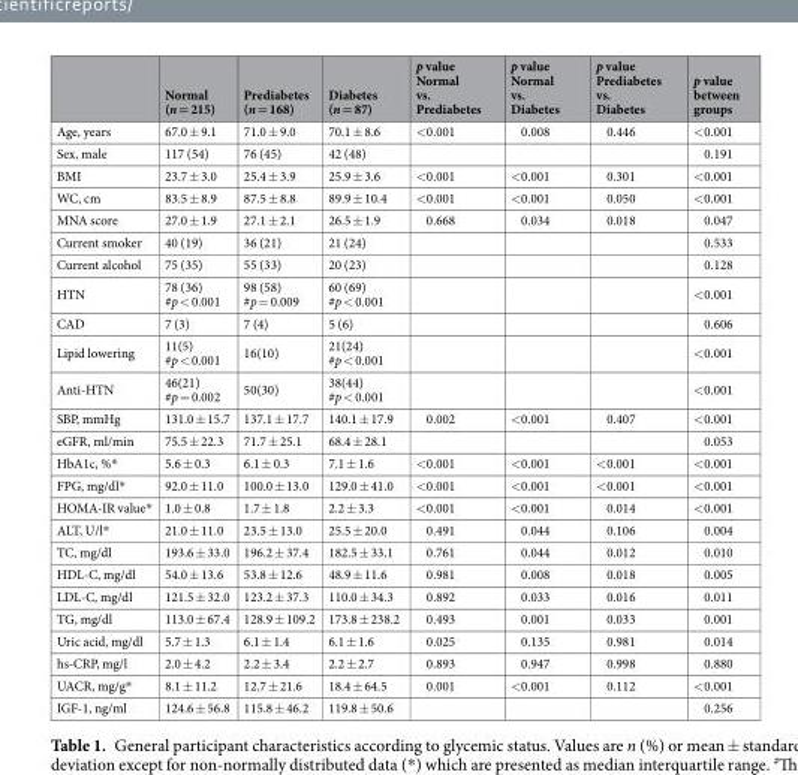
<table><thead><tr><td></td><td>Normal (n = 215)</td><td>Prediabetes (n = 168)</td><td>Diabetes (n = 87)</td><td>p value Normal vs. Prediabetes</td><td>p value Normal vs. Diabetes</td><td>p value Prediabetes vs. Diabetes</td><td>p value between groups</td></tr></thead><tbody><tr><td>Age, years</td><td>67.0 ± 9.1</td><td>71.0 ± 9.0</td><td>70.1 ± 8.6</td><td>&lt;0.001</td><td>0.008</td><td>0.446</td><td>&lt;0.001</td></tr><tr><td>Sex, male</td><td>117 (54)</td><td>76 (45)</td><td>42 (48)</td><td></td><td></td><td></td><td>0.191</td></tr><tr><td>BMI</td><td>23.7 ± 3.0</td><td>25.4 ± 3.9</td><td>25.9 ± 3.6</td><td>&lt;0.001</td><td>&lt;0.001</td><td>0.301</td><td>&lt;0.001</td></tr><tr><td>WC, cm</td><td>83.5 ± 8.9</td><td>87.5 ± 8.8</td><td>89.9 ± 10.4</td><td>&lt;0.001</td><td>&lt;0.001</td><td>0.050</td><td>&lt;0.001</td></tr><tr><td>MNA score</td><td>27.0 ± 1.9</td><td>27.1 ± 2.1</td><td>26.5 ± 1.9</td><td>0.668</td><td>0.034</td><td>0.018</td><td>0.047</td></tr><tr><td>Current smoker</td><td>40 (19)</td><td>36 (21)</td><td>21 (24)</td><td></td><td></td><td></td><td>0.533</td></tr><tr><td>Current alcohol</td><td>75 (35)</td><td>55 (33)</td><td>20 (23)</td><td></td><td></td><td></td><td>0.128</td></tr><tr><td>HTN</td><td>78 (36) #p &lt; 0.001</td><td>98 (58) #p = 0.009</td><td>60 (69) #p &lt; 0.001</td><td></td><td></td><td></td><td>&lt;0.001</td></tr><tr><td>CAD</td><td>7 (3)</td><td>7 (4)</td><td>5 (6)</td><td></td><td></td><td></td><td>0.606</td></tr><tr><td>Lipid lowering</td><td>11(5) #p &lt; 0.001</td><td>16(10)</td><td>21(24) #p &lt; 0.001</td><td></td><td></td><td></td><td>&lt;0.001</td></tr><tr><td>Anti-HTN</td><td>46(21) #p = 0.002</td><td>50(30)</td><td>38(44) #p &lt; 0.001</td><td></td><td></td><td></td><td>&lt;0.001</td></tr><tr><td>SBP, mmHg</td><td>131.0 ± 15.7</td><td>137.1 ± 17.7</td><td>140.1 ± 17.9</td><td>0.002</td><td>&lt;0.001</td><td>0.407</td><td>&lt;0.001</td></tr><tr><td>eGFR, ml/min</td><td>75.5 ± 22.3</td><td>71.7 ± 25.1</td><td>68.4 ± 28.1</td><td></td><td></td><td></td><td>0.053</td></tr><tr><td>HbA1c, %*</td><td>5.6 ± 0.3</td><td>6.1 ± 0.3</td><td>7.1 ± 1.6</td><td>&lt;0.001</td><td>&lt;0.001</td><td>&lt;0.001</td><td>&lt;0.001</td></tr><tr><td>FPG, mg/dl*</td><td>92.0 ± 11.0</td><td>100.0 ± 13.0</td><td>129.0 ± 41.0</td><td>&lt;0.001</td><td>&lt;0.001</td><td>&lt;0.001</td><td>&lt;0.001</td></tr><tr><td>HOMA-IR value*</td><td>1.0 ± 0.8</td><td>1.7 ± 1.8</td><td>2.2 ± 3.3</td><td>&lt;0.001</td><td>&lt;0.001</td><td>0.014</td><td>&lt;0.001</td></tr><tr><td>ALT, U/l*</td><td>21.0 ± 11.0</td><td>23.5 ± 13.0</td><td>25.5 ± 20.0</td><td>0.491</td><td>0.044</td><td>0.106</td><td>0.004</td></tr><tr><td>TC, mg/dl</td><td>193.6 ± 33.0</td><td>196.2 ± 37.4</td><td>182.5 ± 33.1</td><td>0.761</td><td>0.044</td><td>0.012</td><td>0.010</td></tr><tr><td>HDL-C, mg/dl</td><td>54.0 ± 13.6</td><td>53.8 ± 12.6</td><td>48.9 ± 11.6</td><td>0.981</td><td>0.008</td><td>0.018</td><td>0.005</td></tr><tr><td>LDL-C, mg/dl</td><td>121.5 ± 32.0</td><td>123.2 ± 37.3</td><td>110.0 ± 34.3</td><td>0.892</td><td>0.033</td><td>0.016</td><td>0.011</td></tr><tr><td>TG, mg/dl</td><td>113.0 ± 67.4</td><td>128.9 ± 109.2</td><td>173.8 ± 238.2</td><td>0.493</td><td>0.001</td><td>0.033</td><td>0.001</td></tr><tr><td>Uric acid, mg/dl</td><td>5.7 ± 1.3</td><td>6.1 ± 1.4</td><td>6.1 ± 1.6</td><td>0.025</td><td>0.135</td><td>0.981</td><td>0.014</td></tr><tr><td>hs-CRP, mg/l</td><td>2.0 ± 4.2</td><td>2.2 ± 3.4</td><td>2.2 ± 2.7</td><td>0.893</td><td>0.947</td><td>0.998</td><td>0.880</td></tr><tr><td>UACR, mg/g*</td><td>8.1 ± 11.2</td><td>12.7 ± 21.6</td><td>18.4 ± 64.5</td><td>0.001</td><td>&lt;0.001</td><td>0.112</td><td>&lt;0.001</td></tr><tr><td>IGF-1, ng/ml</td><td>124.6 ± 56.8</td><td>115.8 ± 46.2</td><td>119.8 ± 50.6</td><td></td><td></td><td></td><td>0.256</td></tr></tbody></table>